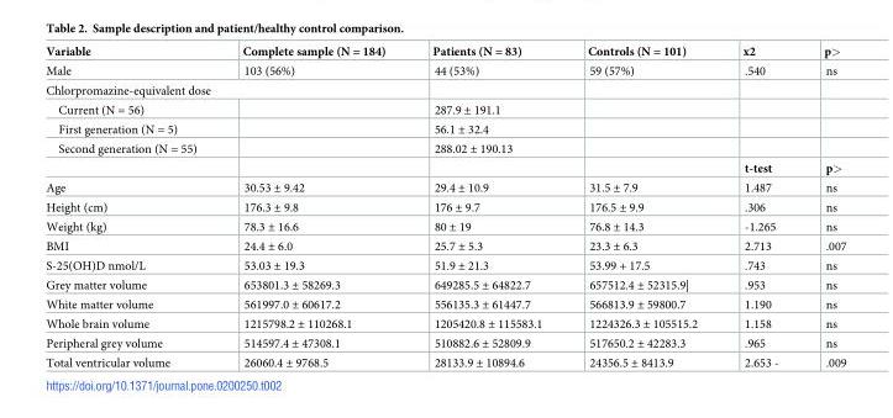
<table><thead><tr><td>Variable</td><td>Complete sample (N = 184)</td><td>Patients (N = 83)</td><td>Controls (N = 101)</td><td>x2</td><td>p&gt;</td></tr></thead><tbody><tr><td>Male</td><td>103 (56%)</td><td>44 (53%)</td><td>59 (57%)</td><td>.540</td><td>ns</td></tr><tr><td colspan="6">Chlorpromazine-equivalent dose</td></tr><tr><td>Current (N = 56)</td><td></td><td>287.9 ± 191.1</td><td></td><td></td><td></td></tr><tr><td>First generation (N = 5)</td><td></td><td>56.1 ± 32.4</td><td></td><td></td><td></td></tr><tr><td rowspan="2">Second generation (N = 55)</td><td></td><td>288.02 ± 190.13</td><td></td><td></td><td></td></tr><tr><td></td><td></td><td></td><td>t-test</td><td>p&gt;</td></tr><tr><td>Age</td><td>30.53 ± 9.42</td><td>29.4 ± 10.9</td><td>31.5 ± 7.9</td><td>1.487</td><td>ns</td></tr><tr><td>Height (cm)</td><td>176.3 ± 9.8</td><td>176 ± 9.7</td><td>176.5 ± 9.9</td><td>.306</td><td>ns</td></tr><tr><td>Weight (kg)</td><td>78.3 ± 16.6</td><td>80 ± 19</td><td>76.8 ± 14.3</td><td>-1.265</td><td>ns</td></tr><tr><td>BMI</td><td>24.4 ± 6.0</td><td>25.7 ± 5.3</td><td>23.3 ± 6.3</td><td>2.713</td><td>.007</td></tr><tr><td>S-25(OH)D nmol/L</td><td>53.03 ± 19.3</td><td>51.9 ± 21.3</td><td>53.99 + 17.5</td><td>.743</td><td>ns</td></tr><tr><td>Grey matter volume</td><td>653801.3 ± 58269.3</td><td>649285.5 ± 64822.7</td><td>657512.4 ± 52315.9|</td><td>.953</td><td>ns</td></tr><tr><td>White matter volume</td><td>561997.0 ± 60617.2</td><td>556135.3 ± 61447.7</td><td>566813.9 ± 59800.7</td><td>1.190</td><td>ns</td></tr><tr><td>Whole brain volume</td><td>1215798.2 ± 110268.1</td><td>1205420.8 ± 115583.1</td><td>1224326.3 ± 105515.2</td><td>1.158</td><td>ns</td></tr><tr><td>Peripheral grey volume</td><td>514597.4 ± 47308.1</td><td>510882.6 ± 52809.9</td><td>517650.2 ± 42283.3</td><td>.965</td><td>ns</td></tr><tr><td>Total ventricular volume</td><td>26060.4 ± 9768.5</td><td>28133.9 ± 10894.6</td><td>24356.5 ± 8413.9</td><td>2.653 -</td><td>.009</td></tr></tbody></table>